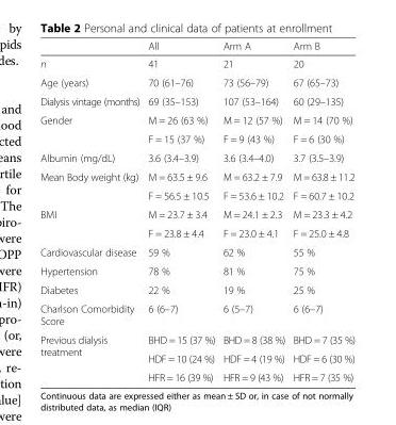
<table><thead><tr><td></td><td>All</td><td>Arm A</td><td>Arm B</td></tr></thead><tbody><tr><td>n</td><td>41</td><td>21</td><td>20</td></tr><tr><td>Age (years)</td><td>70 (61–76)</td><td>73 (56–79)</td><td>67 (65–73)</td></tr><tr><td>Dialysis vintage (months)</td><td>69 (35–153)</td><td>107 (53–164)</td><td>60 (29–135)</td></tr><tr><td rowspan="2">Gender</td><td>M = 26 (63 %)</td><td>M = 12 (57 %)</td><td>M = 14 (70 %)</td></tr><tr><td>F = 15 (37 %)</td><td>F = 9 (43 %)</td><td>F = 6 (30 %)</td></tr><tr><td>Albumin (mg/dL)</td><td>3.6 (3.4–3.9)</td><td>3.6 (3.4–4.0)</td><td>3.7 (3.5–3.9)</td></tr><tr><td rowspan="2">Mean Body weight (kg)</td><td>M = 63.5 ± 9.6</td><td>M = 63.2 ± 7.9</td><td>M = 63.8 ± 11.2</td></tr><tr><td>F = 56.5 ± 10.5</td><td>F = 53.6 ± 10.2</td><td>F = 60.7 ± 10.2</td></tr><tr><td rowspan="2">BMI</td><td>M = 23.7 ± 3.4</td><td>M = 24.1 ± 2.3</td><td>M = 23.3 ± 4.2</td></tr><tr><td>F = 23.8 ± 4.4</td><td>F = 23.0 ± 4.1</td><td>F = 25.0 ± 4.8</td></tr><tr><td>Cardiovascular disease</td><td>59 %</td><td>62 %</td><td>55 %</td></tr><tr><td>Hypertension</td><td>78 %</td><td>81 %</td><td>75 %</td></tr><tr><td>Diabetes</td><td>22 %</td><td>19 %</td><td>25 %</td></tr><tr><td>Charlson Comorbidity Score</td><td>6 (6–7)</td><td>6 (5–7)</td><td>6 (6–7)</td></tr><tr><td rowspan="3">Previous dialysis treatment</td><td>BHD = 15 (37 %)</td><td>BHD = 8 (38 %)</td><td>BHD = 7 (35 %)</td></tr><tr><td>HDF = 10 (24 %)</td><td>HDF = 4 (19 %)</td><td>HDF = 6 (30 %)</td></tr><tr><td>HFR = 16 (39 %)</td><td>HFR = 9 (43 %)</td><td>HFR = 7 (35 %)</td></tr></tbody></table>